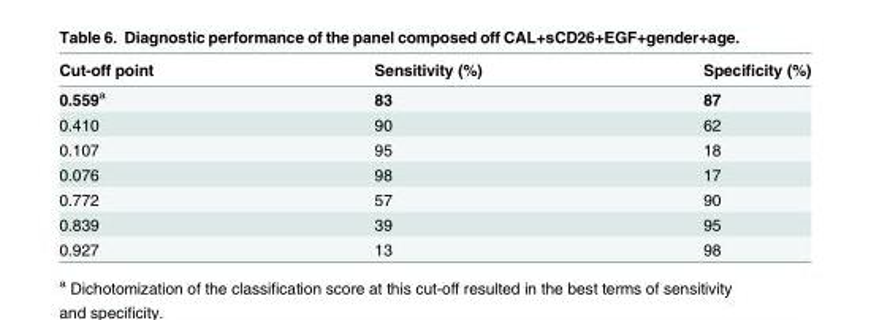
<table><thead><tr><td>Cut-off point</td><td>Sensitivity (%)</td><td>Specificity (%)</td></tr></thead><tbody><tr><td>0.559<sup>a</sup></td><td>83</td><td>87</td></tr><tr><td>0.410</td><td>90</td><td>62</td></tr><tr><td>0.107</td><td>95</td><td>18</td></tr><tr><td>0.076</td><td>98</td><td>17</td></tr><tr><td>0.772</td><td>57</td><td>90</td></tr><tr><td>0.839</td><td>39</td><td>95</td></tr><tr><td>0.927</td><td>13</td><td>98</td></tr></tbody></table>